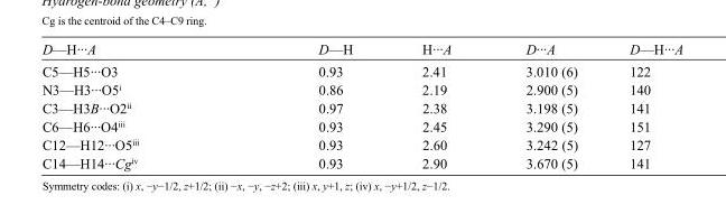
<table><tbody><tr><td>D—H···A</td><td>D—H</td><td>H···A</td><td>D···A</td><td>D—H···A</td></tr><tr><td>C5—H5···O3</td><td>0.93</td><td>2.41</td><td>3.010 (6)</td><td>122</td></tr><tr><td>N3—H3···O5<sup>i</sup></td><td>0.86</td><td>2.19</td><td>2.900 (5)</td><td>140</td></tr><tr><td>C3—H3B···O2<sup>ii</sup></td><td>0.97</td><td>2.38</td><td>3.198 (5)</td><td>141</td></tr><tr><td>C6—H6···O4<sup>iii</sup></td><td>0.93</td><td>2.45</td><td>3.290 (5)</td><td>151</td></tr><tr><td>C12—H12···O5<sup>iii</sup></td><td>0.93</td><td>2.60</td><td>3.242 (5)</td><td>127</td></tr><tr><td>C14—H14···Cg<sup>iv</sup></td><td>0.93</td><td>2.90</td><td>3.670 (5)</td><td>141</td></tr></tbody></table>